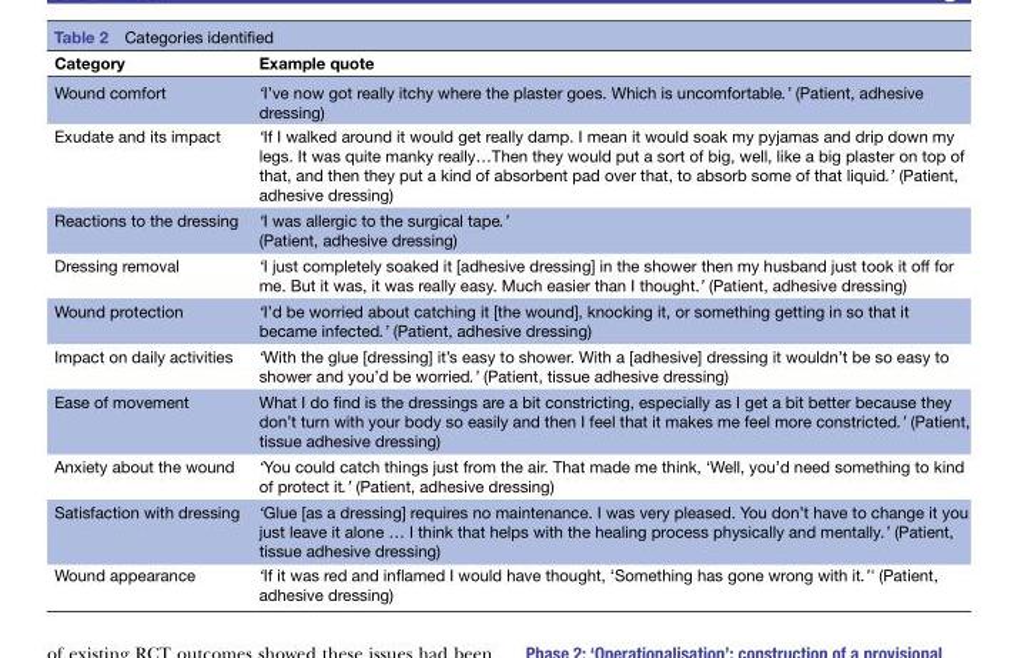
<table><thead><tr><td>Category</td><td>Example quote</td></tr></thead><tbody><tr><td>Wound comfort</td><td>‘I’ve now got really itchy where the plaster goes. Which is uncomfortable.’ (Patient, adhesive dressing)</td></tr><tr><td>Exudate and its impact</td><td>‘If I walked around it would get really damp. I mean it would soak my pyjamas and drip down my legs. It was quite manky really…Then they would put a sort of big, well, like a big plaster on top of that, and then they put a kind of absorbent pad over that, to absorb some of that liquid.’ (Patient, adhesive dressing)</td></tr><tr><td>Reactions to the dressing</td><td>‘I was allergic to the surgical tape.’ (Patient, adhesive dressing)</td></tr><tr><td>Dressing removal</td><td>‘I just completely soaked it [adhesive dressing] in the shower then my husband just took it off for me. But it was, it was really easy. Much easier than I thought.’ (Patient, adhesive dressing)</td></tr><tr><td>Wound protection</td><td>‘I’d be worried about catching it [the wound], knocking it, or something getting in so that it became infected.’ (Patient, adhesive dressing)</td></tr><tr><td>Impact on daily activities</td><td>‘With the glue [dressing] it’s easy to shower. With a [adhesive] dressing it wouldn’t be so easy to shower and you’d be worried.’ (Patient, tissue adhesive dressing)</td></tr><tr><td>Ease of movement</td><td>What I do find is the dressings are a bit constricting, especially as I get a bit better because they don’t turn with your body so easily and then I feel that it makes me feel more constricted.’ (Patient, tissue adhesive dressing)</td></tr><tr><td>Anxiety about the wound</td><td>‘You could catch things just from the air. That made me think, ‘Well, you’d need something to kind of protect it.’ (Patient, adhesive dressing)</td></tr><tr><td>Satisfaction with dressing</td><td>‘Glue [as a dressing] requires no maintenance. I was very pleased. You don’t have to change it you just leave it alone … I think that helps with the healing process physically and mentally.’ (Patient, tissue adhesive dressing)</td></tr><tr><td>Wound appearance</td><td>‘If it was red and inflamed I would have thought, ‘Something has gone wrong with it.’&#x27; (Patient, adhesive dressing)</td></tr></tbody></table>